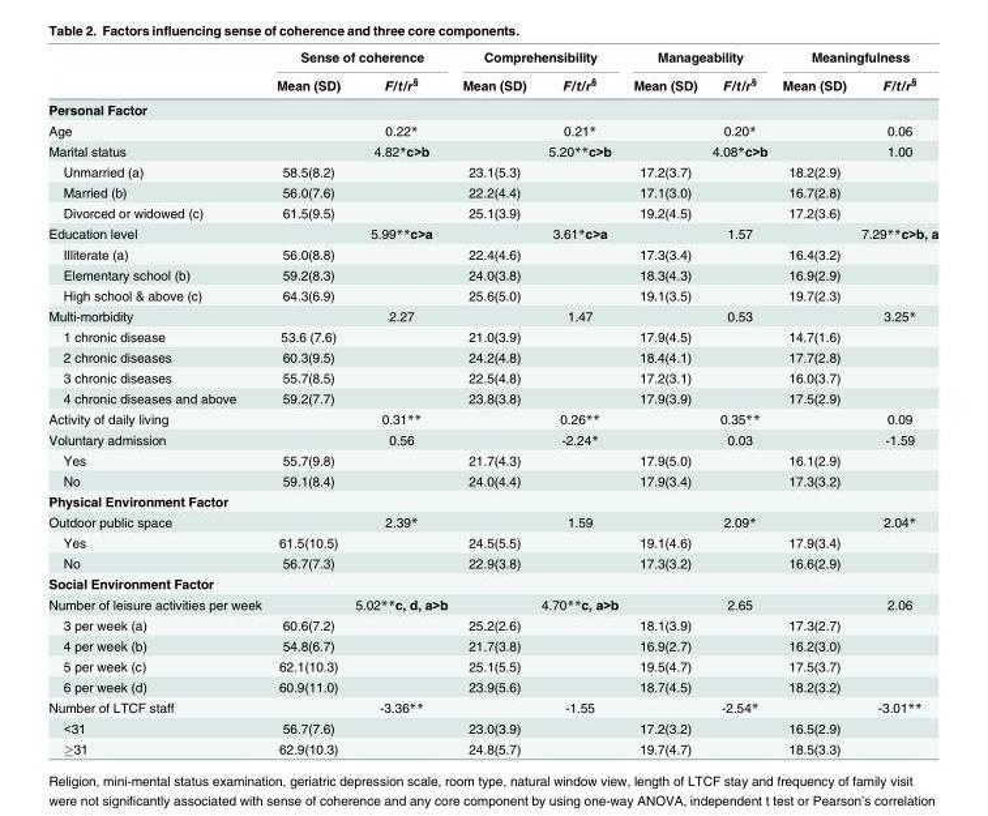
<table><thead><tr><td rowspan="2"></td><td colspan="2">Sense of coherence</td><td colspan="2">Comprehensibility</td><td colspan="2">Manageability</td><td colspan="2">Meaningfulness</td></tr><tr><td>Mean (SD)</td><td>F/t/r<sup>§</sup></td><td>Mean (SD)</td><td>F/t/r<sup>§</sup></td><td>Mean (SD)</td><td>F/t/r<sup>§</sup></td><td>Mean (SD)</td><td>F/t/r<sup>§</sup></td></tr></thead><tbody><tr><td colspan="9">Personal Factor</td></tr><tr><td>Age</td><td></td><td>0.22*</td><td></td><td>0.21*</td><td></td><td>0.20*</td><td></td><td>0.06</td></tr><tr><td>Marital status</td><td></td><td>4.82*c&gt;b</td><td></td><td>5.20**c&gt;b</td><td></td><td>4.08*c&gt;b</td><td></td><td>1.00</td></tr><tr><td>Unmarried (a)</td><td>58.5(8.2)</td><td></td><td>23.1(5.3)</td><td></td><td>17.2(3.7)</td><td></td><td>18.2(2.9)</td><td></td></tr><tr><td>Married (b)</td><td>56.0(7.6)</td><td></td><td>22.2(4.4)</td><td></td><td>17.1(3.0)</td><td></td><td>16.7(2.8)</td><td></td></tr><tr><td>Divorced or widowed (c)</td><td>61.5(9.5)</td><td></td><td>25.1(3.9)</td><td></td><td>19.2(4.5)</td><td></td><td>17.2(3.6)</td><td></td></tr><tr><td>Education level</td><td></td><td>5.99**c&gt;a</td><td></td><td>3.61*c&gt;a</td><td></td><td>1.57</td><td></td><td>7.29**c&gt;b, a</td></tr><tr><td>Illiterate (a)</td><td>56.0(8.8)</td><td></td><td>22.4(4.6)</td><td></td><td>17.3(3.4)</td><td></td><td>16.4(3.2)</td><td></td></tr><tr><td>Elementary school (b)</td><td>59.2(8.3)</td><td></td><td>24.0(3.8)</td><td></td><td>18.3(4.3)</td><td></td><td>16.9(2.9)</td><td></td></tr><tr><td>High school &amp; above (c)</td><td>64.3(6.9)</td><td></td><td>25.6(5.0)</td><td></td><td>19.1(3.5)</td><td></td><td>19.7(2.3)</td><td></td></tr><tr><td>Multi-morbidity</td><td></td><td>2.27</td><td></td><td>1.47</td><td></td><td>0.53</td><td></td><td>3.25*</td></tr><tr><td>1 chronic disease</td><td>53.6 (7.6)</td><td></td><td>21.0(3.9)</td><td></td><td>17.9(4.5)</td><td></td><td>14.7(1.6)</td><td></td></tr><tr><td>2 chronic diseases</td><td>60.3(9.5)</td><td></td><td>24.2(4.8)</td><td></td><td>18.4(4.1)</td><td></td><td>17.7(2.8)</td><td></td></tr><tr><td>3 chronic diseases</td><td>55.7(8.5)</td><td></td><td>22.5(4.8)</td><td></td><td>17.2(3.1)</td><td></td><td>16.0(3.7)</td><td></td></tr><tr><td>4 chronic diseases and above</td><td>59.2(7.7)</td><td></td><td>23.8(3.8)</td><td></td><td>17.9(3.9)</td><td></td><td>17.5(2.9)</td><td></td></tr><tr><td>Activity of daily living</td><td></td><td>0.31**</td><td></td><td>0.26**</td><td></td><td>0.35**</td><td></td><td>0.09</td></tr><tr><td>Voluntary admission</td><td></td><td>0.56</td><td></td><td>-2.24*</td><td></td><td>0.03</td><td></td><td>-1.59</td></tr><tr><td>Yes</td><td>55.7(9.8)</td><td></td><td>21.7(4.3)</td><td></td><td>17.9(5.0)</td><td></td><td>16.1(2.9)</td><td></td></tr><tr><td>No</td><td>59.1(8.4)</td><td></td><td>24.0(4.4)</td><td></td><td>17.9(3.4)</td><td></td><td>17.3(3.2)</td><td></td></tr><tr><td colspan="9">Physical Environment Factor</td></tr><tr><td>Outdoor public space</td><td></td><td>2.39*</td><td></td><td>1.59</td><td></td><td>2.09*</td><td></td><td>2.04*</td></tr><tr><td>Yes</td><td>61.5(10.5)</td><td></td><td>24.5(5.5)</td><td></td><td>19.1(4.6)</td><td></td><td>17.9(3.4)</td><td></td></tr><tr><td>No</td><td>56.7(7.3)</td><td></td><td>22.9(3.8)</td><td></td><td>17.3(3.2)</td><td></td><td>16.6(2.9)</td><td></td></tr><tr><td colspan="9">Social Environment Factor</td></tr><tr><td>Number of leisure activities per week</td><td></td><td>5.02**c, d, a&gt;b</td><td></td><td>4.70**c, a&gt;b</td><td></td><td>2.65</td><td></td><td>2.06</td></tr><tr><td>3 per week (a)</td><td>60.6(7.2)</td><td></td><td>25.2(2.6)</td><td></td><td>18.1(3.9)</td><td></td><td>17.3(2.7)</td><td></td></tr><tr><td>4 per week (b)</td><td>54.8(6.7)</td><td></td><td>21.7(3.8)</td><td></td><td>16.9(2.7)</td><td></td><td>16.2(3.0)</td><td></td></tr><tr><td>5 per week (c)</td><td>62.1(10.3)</td><td></td><td>25.1(5.5)</td><td></td><td>19.5(4.7)</td><td></td><td>17.5(3.7)</td><td></td></tr><tr><td>6 per week (d)</td><td>60.9(11.0)</td><td></td><td>23.9(5.6)</td><td></td><td>18.7(4.5)</td><td></td><td>18.2(3.2)</td><td></td></tr><tr><td>Number of LTCF staff</td><td></td><td>-3.36**</td><td></td><td>-1.55</td><td></td><td>-2.54*</td><td></td><td>-3.01**</td></tr><tr><td>&lt;31</td><td>56.7(7.6)</td><td></td><td>23.0(3.9)</td><td></td><td>17.2(3.2)</td><td></td><td>16.5(2.9)</td><td></td></tr><tr><td>≥31</td><td>62.9(10.3)</td><td></td><td>24.8(5.7)</td><td></td><td>19.7(4.7)</td><td></td><td>18.5(3.3)</td><td></td></tr></tbody></table>